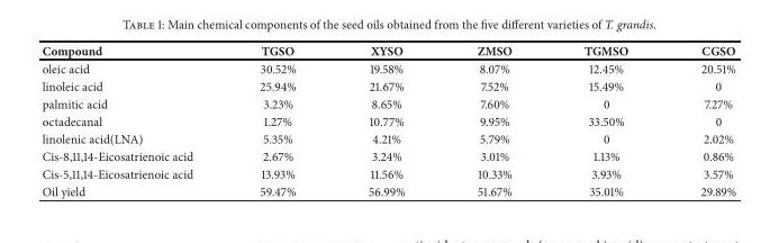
<table><thead><tr><td>Compound</td><td>TGSO</td><td>XYSO</td><td>ZMSO</td><td>TGMSO</td><td>CGSO</td></tr></thead><tbody><tr><td>oleic acid</td><td>30.52%</td><td>19.58%</td><td>8.07%</td><td>12.45%</td><td>20.51%</td></tr><tr><td>linoleic acid</td><td>25.94%</td><td>21.67%</td><td>7.52%</td><td>15.49%</td><td>0</td></tr><tr><td>palmitic acid</td><td>3.23%</td><td>8.65%</td><td>7.60%</td><td>0</td><td>7.27%</td></tr><tr><td>octadecanal</td><td>1.27%</td><td>10.77%</td><td>9.95%</td><td>33.50%</td><td>0</td></tr><tr><td>linolenic acid(LNA)</td><td>5.35%</td><td>4.21%</td><td>5.79%</td><td>0</td><td>2.02%</td></tr><tr><td>Cis-8,11,14-Eicosatrienoic acid</td><td>2.67%</td><td>3.24%</td><td>3.01%</td><td>1.13%</td><td>0.86%</td></tr><tr><td>Cis-5,11,14-Eicosatrienoic acid</td><td>13.93%</td><td>11.56%</td><td>10.33%</td><td>3.93%</td><td>3.57%</td></tr><tr><td>Oil yield</td><td>59.47%</td><td>56.99%</td><td>51.67%</td><td>35.01%</td><td>29.89%</td></tr></tbody></table>